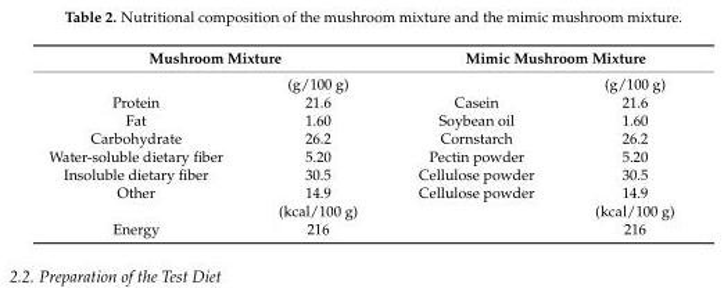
<table><thead><tr><td colspan="2">Mushroom Mixture</td><td colspan="2">Mimic Mushroom Mixture</td></tr><tr><td></td><td>(g/100 g)</td><td></td><td>(g/100 g)</td></tr></thead><tbody><tr><td>Protein</td><td>21.6</td><td>Casein</td><td>21.6</td></tr><tr><td>Fat</td><td>1.60</td><td>Soybean oil</td><td>1.60</td></tr><tr><td>Carbohydrate</td><td>26.2</td><td>Cornstarch</td><td>26.2</td></tr><tr><td>Water-soluble dietary fiber</td><td>5.20</td><td>Pectin powder</td><td>5.20</td></tr><tr><td>Insoluble dietary fiber</td><td>30.5</td><td>Cellulose powder</td><td>30.5</td></tr><tr><td rowspan="2">Other</td><td>14.9</td><td>Cellulose powder</td><td>14.9</td></tr><tr><td>(kcal/100 g)</td><td></td><td>(kcal/100 g)</td></tr><tr><td>Energy</td><td>216</td><td></td><td>216</td></tr></tbody></table>